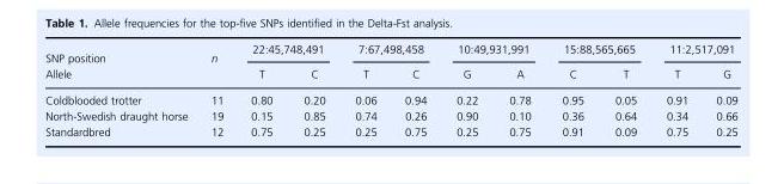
<table><thead><tr><td rowspan="2">SNP position Allele</td><td rowspan="2">n</td><td colspan="2">22:45,748,491</td><td colspan="2">7:67,498,458</td><td colspan="2">10:49,931,991</td><td colspan="2">15:88,565,665</td><td colspan="2">11:2,517,091</td></tr><tr><td>T</td><td>C</td><td>T</td><td>C</td><td>G</td><td>A</td><td>C</td><td>T</td><td>T</td><td>G</td></tr></thead><tbody><tr><td>Coldblooded trotter</td><td>11</td><td>0.80</td><td>0.20</td><td>0.06</td><td>0.94</td><td>0.22</td><td>0.78</td><td>0.95</td><td>0.05</td><td>0.91</td><td>0.09</td></tr><tr><td>North-Swedish draught horse</td><td>19</td><td>0.15</td><td>0.85</td><td>0.74</td><td>0.26</td><td>0.90</td><td>0.10</td><td>0.36</td><td>0.64</td><td>0.34</td><td>0.66</td></tr><tr><td>Standardbred</td><td>12</td><td>0.75</td><td>0.25</td><td>0.25</td><td>0.75</td><td>0.25</td><td>0.75</td><td>0.91</td><td>0.09</td><td>0.75</td><td>0.25</td></tr></tbody></table>